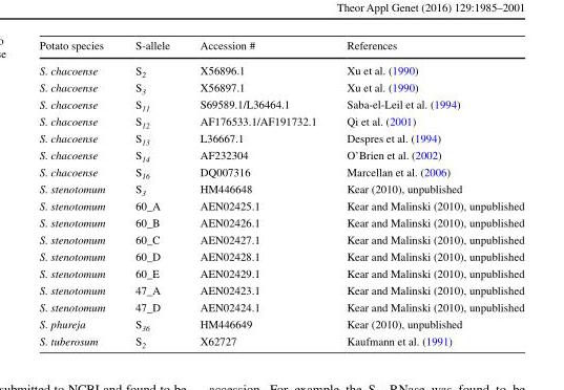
<table><thead><tr><td>Potato species</td><td>S-allele</td><td>Accession #</td><td>References</td></tr></thead><tbody><tr><td>S. chacoense</td><td>S<sub>2</sub></td><td>X56896.1</td><td>Xu et al. (1990)</td></tr><tr><td>S. chacoense</td><td>S<sub>3</sub></td><td>X56897.1</td><td>Xu et al. (1990)</td></tr><tr><td>S. chacoense</td><td>S<sub>11</sub></td><td>S69589.1/L36464.1</td><td>Saba-el-Leil et al. (1994)</td></tr><tr><td>S. chacoense</td><td>S<sub>12</sub></td><td>AF176533.1/AF191732.1</td><td>Qi et al. (2001)</td></tr><tr><td>S. chacoense</td><td>S<sub>13</sub></td><td>L36667.1</td><td>Despres et al. (1994)</td></tr><tr><td>S. chacoense</td><td>S<sub>14</sub></td><td>AF232304</td><td>O’Brien et al. (2002)</td></tr><tr><td>S. chacoense</td><td>S<sub>16</sub></td><td>DQ007316</td><td>Marcellan et al. (2006)</td></tr><tr><td>S. stenotomum</td><td>S<sub>3</sub></td><td>HM446648</td><td>Kear (2010), unpublished</td></tr><tr><td>S. stenotomum</td><td>60_A</td><td>AEN02425.1</td><td>Kear and Malinski (2010), unpublished</td></tr><tr><td>S. stenotomum</td><td>60_B</td><td>AEN02426.1</td><td>Kear and Malinski (2010), unpublished</td></tr><tr><td>S. stenotomum</td><td>60_C</td><td>AEN02427.1</td><td>Kear and Malinski (2010), unpublished</td></tr><tr><td>S. stenotomum</td><td>60_D</td><td>AEN02428.1</td><td>Kear and Malinski (2010), unpublished</td></tr><tr><td>S. stenotomum</td><td>60_E</td><td>AEN02429.1</td><td>Kear and Malinski (2010), unpublished</td></tr><tr><td>S. stenotomum</td><td>47_A</td><td>AEN02423.1</td><td>Kear and Malinski (2010), unpublished</td></tr><tr><td>S. stenotomum</td><td>47_D</td><td>AEN02424.1</td><td>Kear and Malinski (2010), unpublished</td></tr><tr><td>S. phureja</td><td>S<sub>36</sub></td><td>HM446649</td><td>Kear (2010), unpublished</td></tr><tr><td>S. tuberosum</td><td>S<sub>2</sub></td><td>X62727</td><td>Kaufmann et al. (1991)</td></tr></tbody></table>